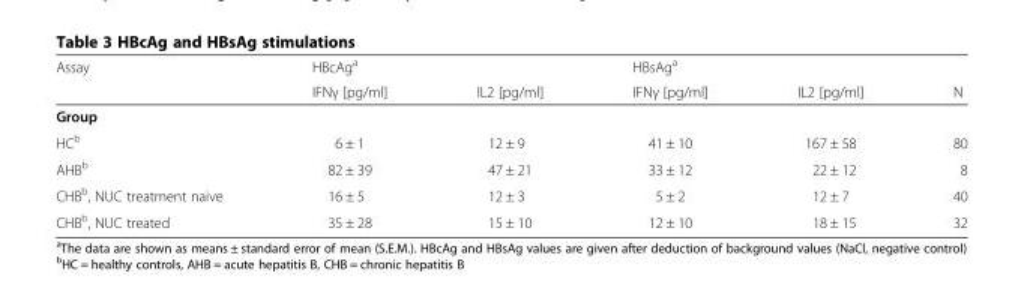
<table><thead><tr><td rowspan="2">Assay</td><td colspan="2">HBcAg<sup>a</sup></td><td colspan="2">HBsAg<sup>a</sup></td><td rowspan="2">N</td></tr><tr><td>IFNγ [pg/ml]</td><td>IL2 [pg/ml]</td><td>IFNγ [pg/ml]</td><td>IL2 [pg/ml]</td></tr></thead><tbody><tr><td colspan="6">Group</td></tr><tr><td>HC<sup>b</sup></td><td>6 ± 1</td><td>12 ± 9</td><td>41 ± 10</td><td>167 ± 58</td><td>80</td></tr><tr><td>AHB<sup>b</sup></td><td>82 ± 39</td><td>47 ± 21</td><td>33 ± 12</td><td>22 ± 12</td><td>8</td></tr><tr><td>CHB<sup>b</sup>, NUC treatment naive</td><td>16 ± 5</td><td>12 ± 3</td><td>5 ± 2</td><td>12 ± 7</td><td>40</td></tr><tr><td>CHB<sup>b</sup>, NUC treated</td><td>35 ± 28</td><td>15 ± 10</td><td>12 ± 10</td><td>18 ± 15</td><td>32</td></tr></tbody></table>